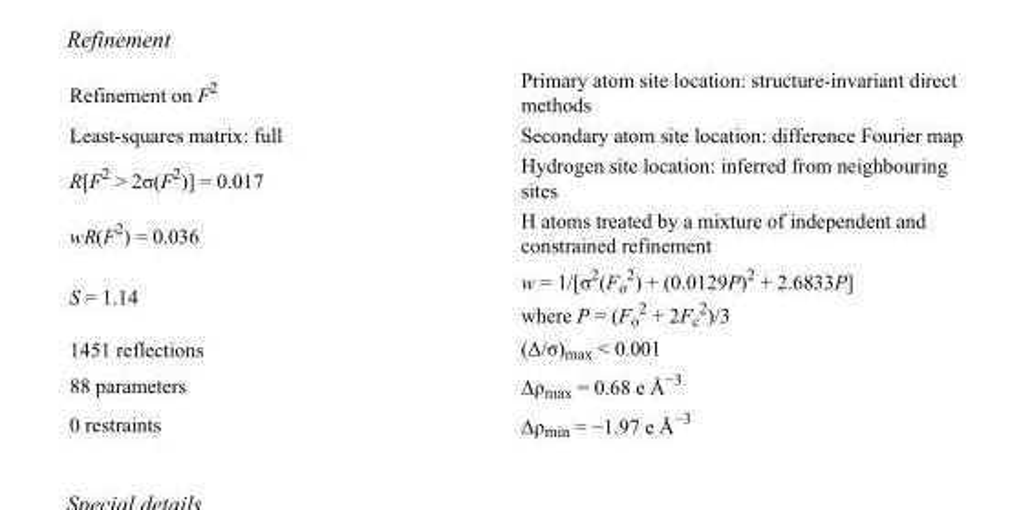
<table><tbody><tr><td>Refinement on F<sup>2</sup></td><td>Primary atom site location: structure-invariant direct methods</td></tr><tr><td>Least-squares matrix: full</td><td>Secondary atom site location: difference Fourier map</td></tr><tr><td>R[F<sup>2</sup> &gt; 2σ(F<sup>2</sup>)] = 0.017</td><td>Hydrogen site location: inferred from neighbouring sites</td></tr><tr><td>wR(F<sup>2</sup>) = 0.036</td><td>H atoms treated by a mixture of independent and constrained refinement</td></tr><tr><td>S = 1.14</td><td>w = 1/[σ<sup>2</sup>(F<sub>o</sub> <sup>2</sup>) + (0.0129P)<sup>2</sup> + 2.6833P] where P = (F<sub>o</sub> <sup>2</sup> + 2F<sub>c</sub> <sup>2</sup>)/3</td></tr><tr><td>1451 reflections</td><td>(Δ/σ)<sub>max</sub> &lt; 0.001</td></tr><tr><td>88 parameters</td><td>Δρ<sub>max</sub> = 0.68 e Å<sup>−3</sup></td></tr><tr><td>0 restraints</td><td>Δρ<sub>min</sub> = −1.97 e Å<sup>−3</sup></td></tr></tbody></table>